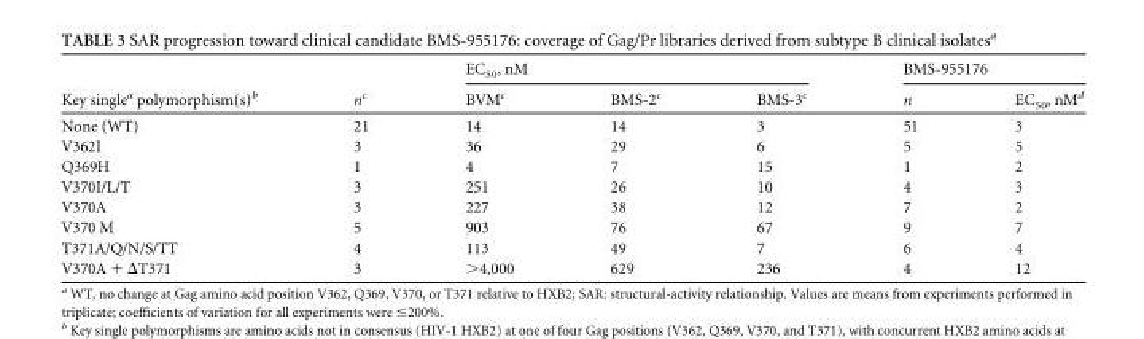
<table><thead><tr><td rowspan="2">Key single<sup>a</sup> polymorphism(s)<sup>b</sup></td><td rowspan="2">n<sup>c</sup></td><td colspan="3">EC<sub>50</sub>, nM</td><td colspan="2">BMS-955176</td></tr><tr><td>BVM<sup>c</sup></td><td>BMS-2<sup>c</sup></td><td>BMS-3<sup>c</sup></td><td>n</td><td>EC<sub>50</sub>, nM<sup>d</sup></td></tr></thead><tbody><tr><td>None (WT)</td><td>21</td><td>14</td><td>14</td><td>3</td><td>51</td><td>3</td></tr><tr><td>V362I</td><td>3</td><td>36</td><td>29</td><td>6</td><td>5</td><td>5</td></tr><tr><td>Q369H</td><td>1</td><td>4</td><td>7</td><td>15</td><td>1</td><td>2</td></tr><tr><td>V370I/L/T</td><td>3</td><td>251</td><td>26</td><td>10</td><td>4</td><td>3</td></tr><tr><td>V370A</td><td>3</td><td>227</td><td>38</td><td>12</td><td>7</td><td>2</td></tr><tr><td>V370 M</td><td>5</td><td>903</td><td>76</td><td>67</td><td>9</td><td>7</td></tr><tr><td>T371A/Q/N/S/TT</td><td>4</td><td>113</td><td>49</td><td>7</td><td>6</td><td>4</td></tr><tr><td>V370A + ΔT371</td><td>3</td><td>&gt;4,000</td><td>629</td><td>236</td><td>4</td><td>12</td></tr></tbody></table>